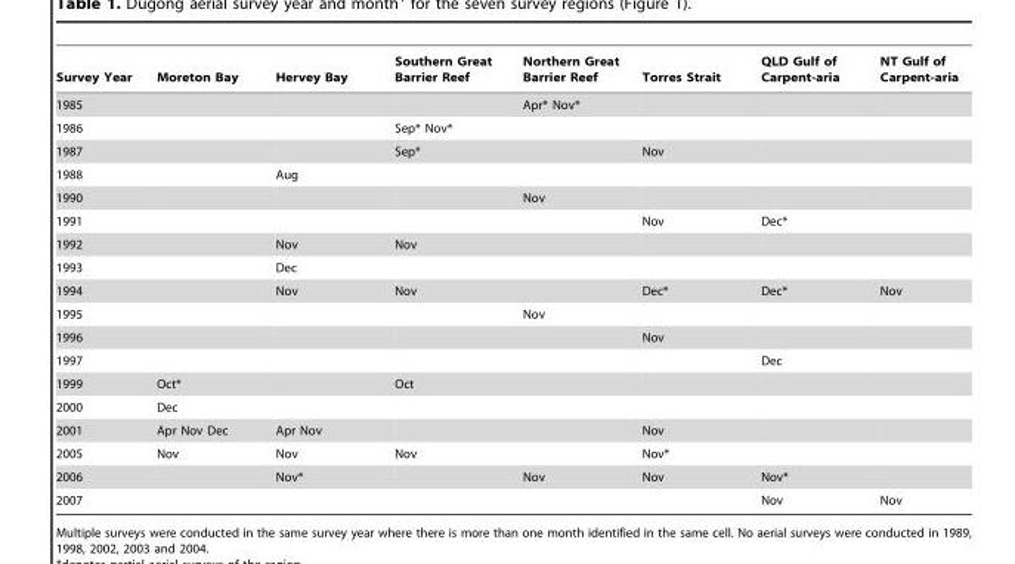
<table><thead><tr><td>Survey Year</td><td>Moreton Bay</td><td>Hervey Bay</td><td>Southern Great Barrier Reef</td><td>Northern Great Barrier Reef</td><td>Torres Strait</td><td>QLD Gulf of Carpent-aria</td><td>NT Gulf of Carpent-aria</td></tr></thead><tbody><tr><td>1985</td><td></td><td></td><td></td><td>Apr* Nov*</td><td></td><td></td><td></td></tr><tr><td>1986</td><td></td><td></td><td>Sep* Nov*</td><td></td><td></td><td></td><td></td></tr><tr><td>1987</td><td></td><td></td><td>Sep*</td><td></td><td>Nov</td><td></td><td></td></tr><tr><td>1988</td><td></td><td>Aug</td><td></td><td></td><td></td><td></td><td></td></tr><tr><td>1990</td><td></td><td></td><td></td><td>Nov</td><td></td><td></td><td></td></tr><tr><td>1991</td><td></td><td></td><td></td><td></td><td>Nov</td><td>Dec*</td><td></td></tr><tr><td>1992</td><td></td><td>Nov</td><td>Nov</td><td></td><td></td><td></td><td></td></tr><tr><td>1993</td><td></td><td>Dec</td><td></td><td></td><td></td><td></td><td></td></tr><tr><td>1994</td><td></td><td>Nov</td><td>Nov</td><td></td><td>Dec*</td><td>Dec*</td><td>Nov</td></tr><tr><td>1995</td><td></td><td></td><td></td><td>Nov</td><td></td><td></td><td></td></tr><tr><td>1996</td><td></td><td></td><td></td><td></td><td>Nov</td><td></td><td></td></tr><tr><td>1997</td><td></td><td></td><td></td><td></td><td></td><td>Dec</td><td></td></tr><tr><td>1999</td><td>Oct*</td><td></td><td>Oct</td><td></td><td></td><td></td><td></td></tr><tr><td>2000</td><td>Dec</td><td></td><td></td><td></td><td></td><td></td><td></td></tr><tr><td>2001</td><td>Apr Nov Dec</td><td>Apr Nov</td><td></td><td></td><td>Nov</td><td></td><td></td></tr><tr><td>2005</td><td>Nov</td><td>Nov</td><td>Nov</td><td></td><td>Nov*</td><td></td><td></td></tr><tr><td>2006</td><td></td><td>Nov*</td><td></td><td>Nov</td><td>Nov</td><td>Nov*</td><td></td></tr><tr><td>2007</td><td></td><td></td><td></td><td></td><td></td><td>Nov</td><td>Nov</td></tr></tbody></table>